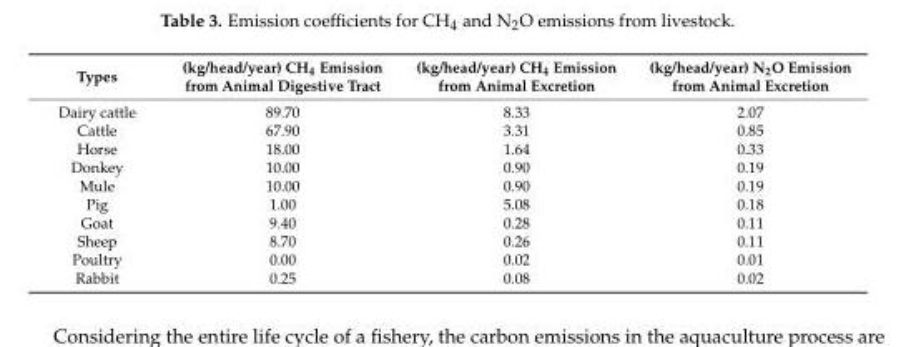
<table><thead><tr><td>Types</td><td>(kg/head/year) CH<sub>4</sub> Emission from Animal Digestive Tract</td><td>(kg/head/year) CH<sub>4</sub> Emission from Animal Excretion</td><td>(kg/head/year) N<sub>2</sub>O Emission from Animal Excretion</td></tr></thead><tbody><tr><td>Dairy cattle</td><td>89.70</td><td>8.33</td><td>2.07</td></tr><tr><td>Cattle</td><td>67.90</td><td>3.31</td><td>0.85</td></tr><tr><td>Horse</td><td>18.00</td><td>1.64</td><td>0.33</td></tr><tr><td>Donkey</td><td>10.00</td><td>0.90</td><td>0.19</td></tr><tr><td>Mule</td><td>10.00</td><td>0.90</td><td>0.19</td></tr><tr><td>Pig</td><td>1.00</td><td>5.08</td><td>0.18</td></tr><tr><td>Goat</td><td>9.40</td><td>0.28</td><td>0.11</td></tr><tr><td>Sheep</td><td>8.70</td><td>0.26</td><td>0.11</td></tr><tr><td>Poultry</td><td>0.00</td><td>0.02</td><td>0.01</td></tr><tr><td>Rabbit</td><td>0.25</td><td>0.08</td><td>0.02</td></tr></tbody></table>